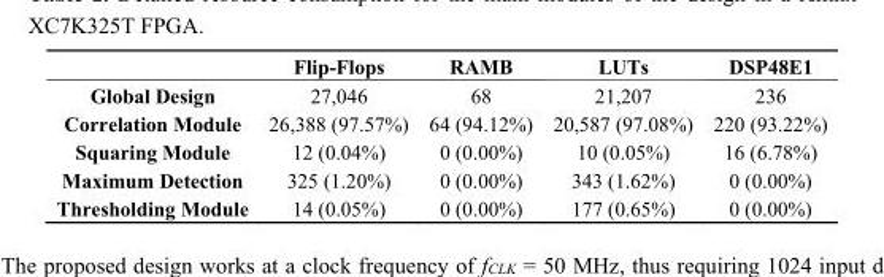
<table><thead><tr><td></td><td>Flip-Flops</td><td>RAMB</td><td>LUTs</td><td>DSP48E1</td></tr></thead><tbody><tr><td>Global Design</td><td>27,046</td><td>68</td><td>21,207</td><td>236</td></tr><tr><td>Correlation Module</td><td>26,388 (97.57%)</td><td>64 (94.12%)</td><td>20,587 (97.08%)</td><td>220 (93.22%)</td></tr><tr><td>Squaring Module</td><td>12 (0.04%)</td><td>0 (0.00%)</td><td>10 (0.05%)</td><td>16 (6.78%)</td></tr><tr><td>Maximum Detection</td><td>325 (1.20%)</td><td>0 (0.00%)</td><td>343 (1.62%)</td><td>0 (0.00%)</td></tr><tr><td>Thresholding Module</td><td>14 (0.05%)</td><td>0 (0.00%)</td><td>177 (0.65%)</td><td>0 (0.00%)</td></tr></tbody></table>